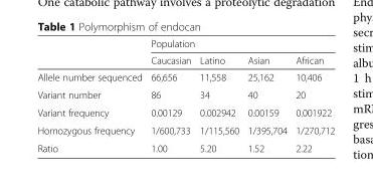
<table><thead><tr><td rowspan="2"></td><td colspan="4">Population</td></tr><tr><td>Caucasian</td><td>Latino</td><td>Asian</td><td>African</td></tr></thead><tbody><tr><td>Allele number sequenced</td><td>66,656</td><td>11,558</td><td>25,162</td><td>10,406</td></tr><tr><td>Variant number</td><td>86</td><td>34</td><td>40</td><td>20</td></tr><tr><td>Variant frequency</td><td>0.00129</td><td>0.002942</td><td>0.00159</td><td>0.001922</td></tr><tr><td>Homozygous frequency</td><td>1/600,733</td><td>1/115,560</td><td>1/395,704</td><td>1/270,712</td></tr><tr><td>Ratio</td><td>1.00</td><td>5.20</td><td>1.52</td><td>2.22</td></tr></tbody></table>